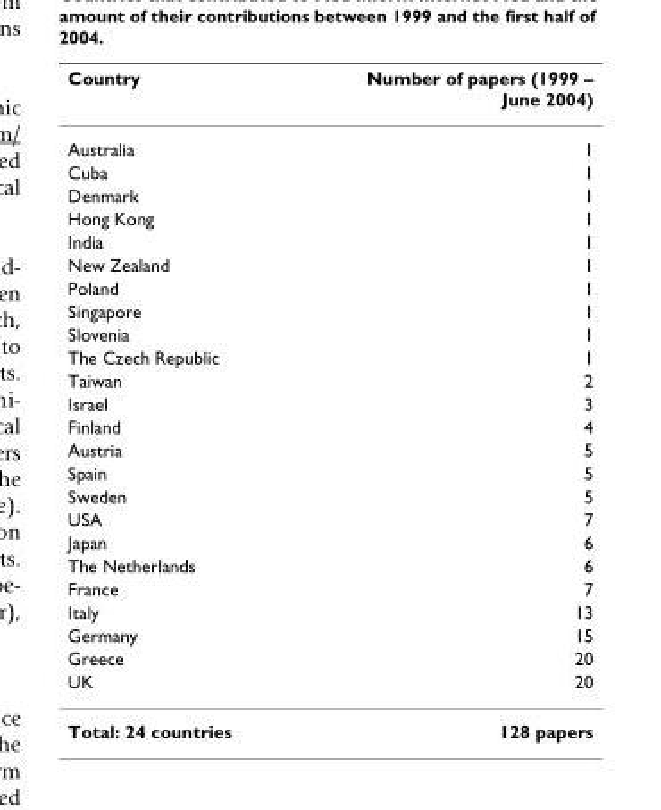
<table><thead><tr><td>Country</td><td>Number of papers (1999 – June 2004)</td></tr></thead><tbody><tr><td>Australia</td><td>1</td></tr><tr><td>Cuba</td><td>1</td></tr><tr><td>Denmark</td><td>1</td></tr><tr><td>Hong Kong</td><td>1</td></tr><tr><td>India</td><td>1</td></tr><tr><td>New Zealand</td><td>1</td></tr><tr><td>Poland</td><td>1</td></tr><tr><td>Singapore</td><td>1</td></tr><tr><td>Slovenia</td><td>1</td></tr><tr><td>The Czech Republic</td><td>1</td></tr><tr><td>Taiwan</td><td>2</td></tr><tr><td>Israel</td><td>3</td></tr><tr><td>Finland</td><td>4</td></tr><tr><td>Austria</td><td>5</td></tr><tr><td>Spain</td><td>5</td></tr><tr><td>Sweden</td><td>5</td></tr><tr><td>USA</td><td>7</td></tr><tr><td>Japan</td><td>6</td></tr><tr><td>The Netherlands</td><td>6</td></tr><tr><td>France</td><td>7</td></tr><tr><td>Italy</td><td>13</td></tr><tr><td>Germany</td><td>15</td></tr><tr><td>Greece</td><td>20</td></tr><tr><td>UK</td><td>20</td></tr><tr><td>Total: 24 countries</td><td>128 papers</td></tr></tbody></table>